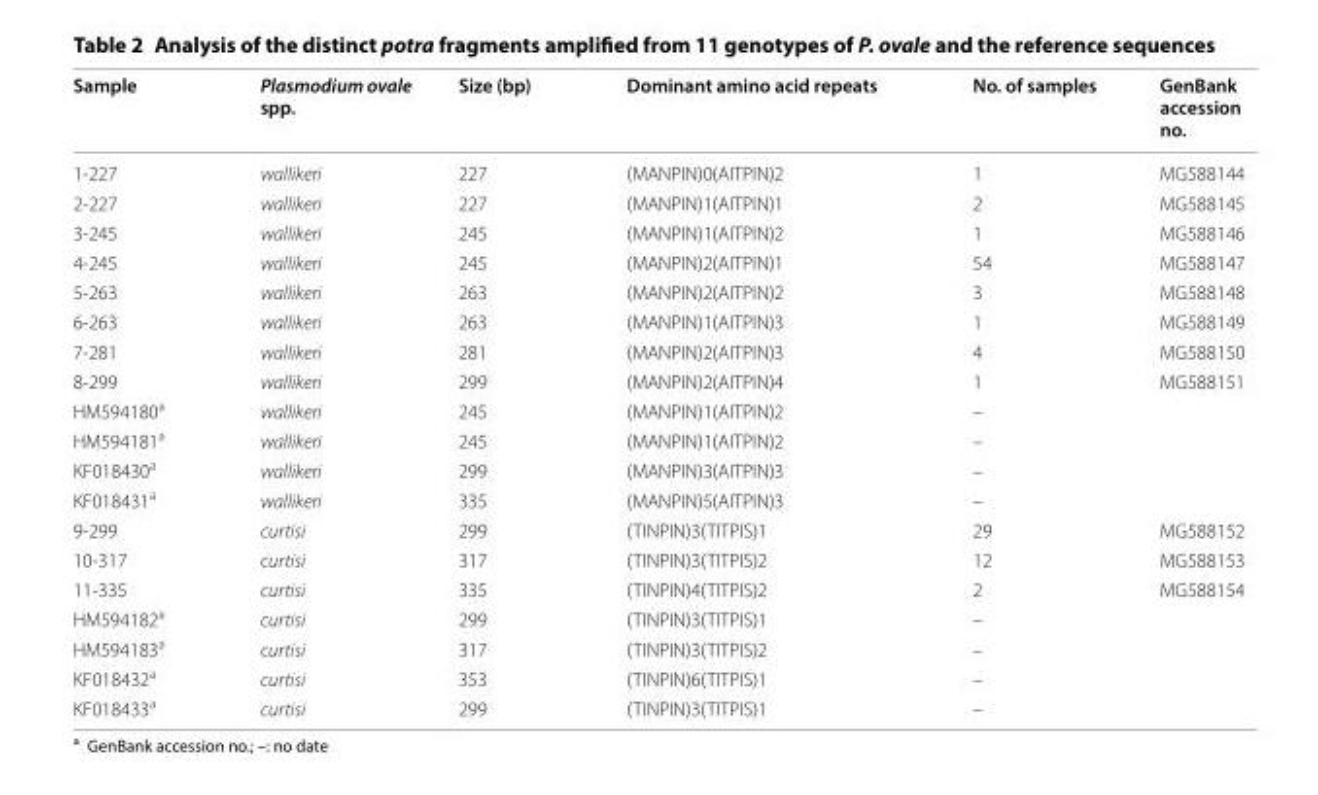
<table><thead><tr><td>Sample</td><td>Plasmodium ovale spp.</td><td>Size (bp)</td><td>Dominant amino acid repeats</td><td>No. of samples</td><td>GenBank accession no.</td></tr></thead><tbody><tr><td>1-227</td><td>wallikeri</td><td>227</td><td>(MANPIN)0(AITPIN)2</td><td>1</td><td>MG588144</td></tr><tr><td>2-227</td><td>wallikeri</td><td>227</td><td>(MANPIN)1(AITPIN)1</td><td>2</td><td>MG588145</td></tr><tr><td>3-245</td><td>wallikeri</td><td>245</td><td>(MANPIN)1(AITPIN)2</td><td>1</td><td>MG588146</td></tr><tr><td>4-245</td><td>wallikeri</td><td>245</td><td>(MANPIN)2(AITPIN)1</td><td>54</td><td>MG588147</td></tr><tr><td>5-263</td><td>wallikeri</td><td>263</td><td>(MANPIN)2(AITPIN)2</td><td>3</td><td>MG588148</td></tr><tr><td>6-263</td><td>wallikeri</td><td>263</td><td>(MANPIN)1(AITPIN)3</td><td>1</td><td>MG588149</td></tr><tr><td>7-281</td><td>wallikeri</td><td>281</td><td>(MANPIN)2(AITPIN)3</td><td>4</td><td>MG588150</td></tr><tr><td>8-299</td><td>wallikeri</td><td>299</td><td>(MANPIN)2(AITPIN)4</td><td>1</td><td>MG588151</td></tr><tr><td>HM594180<sup>a</sup></td><td>wallikeri</td><td>245</td><td>(MANPIN)1(AITPIN)2</td><td>–</td><td></td></tr><tr><td>HM594181<sup>a</sup></td><td>wallikeri</td><td>245</td><td>(MANPIN)1(AITPIN)2</td><td>–</td><td></td></tr><tr><td>KF018430<sup>a</sup></td><td>wallikeri</td><td>299</td><td>(MANPIN)3(AITPIN)3</td><td>–</td><td></td></tr><tr><td>KF018431<sup>a</sup></td><td>wallikeri</td><td>335</td><td>(MANPIN)5(AITPIN)3</td><td>–</td><td></td></tr><tr><td>9-299</td><td>curtisi</td><td>299</td><td>(TINPIN)3(TITPIS)1</td><td>29</td><td>MG588152</td></tr><tr><td>10-317</td><td>curtisi</td><td>317</td><td>(TINPIN)3(TITPIS)2</td><td>12</td><td>MG588153</td></tr><tr><td>11-335</td><td>curtisi</td><td>335</td><td>(TINPIN)4(TITPIS)2</td><td>2</td><td>MG588154</td></tr><tr><td>HM594182<sup>a</sup></td><td>curtisi</td><td>299</td><td>(TINPIN)3(TITPIS)1</td><td>–</td><td></td></tr><tr><td>HM594183<sup>a</sup></td><td>curtisi</td><td>317</td><td>(TINPIN)3(TITPIS)2</td><td>–</td><td></td></tr><tr><td>KF018432<sup>a</sup></td><td>curtisi</td><td>353</td><td>(TINPIN)6(TITPIS)1</td><td>–</td><td></td></tr><tr><td>KF018433<sup>a</sup></td><td>curtisi</td><td>299</td><td>(TINPIN)3(TITPIS)1</td><td>–</td><td></td></tr></tbody></table>